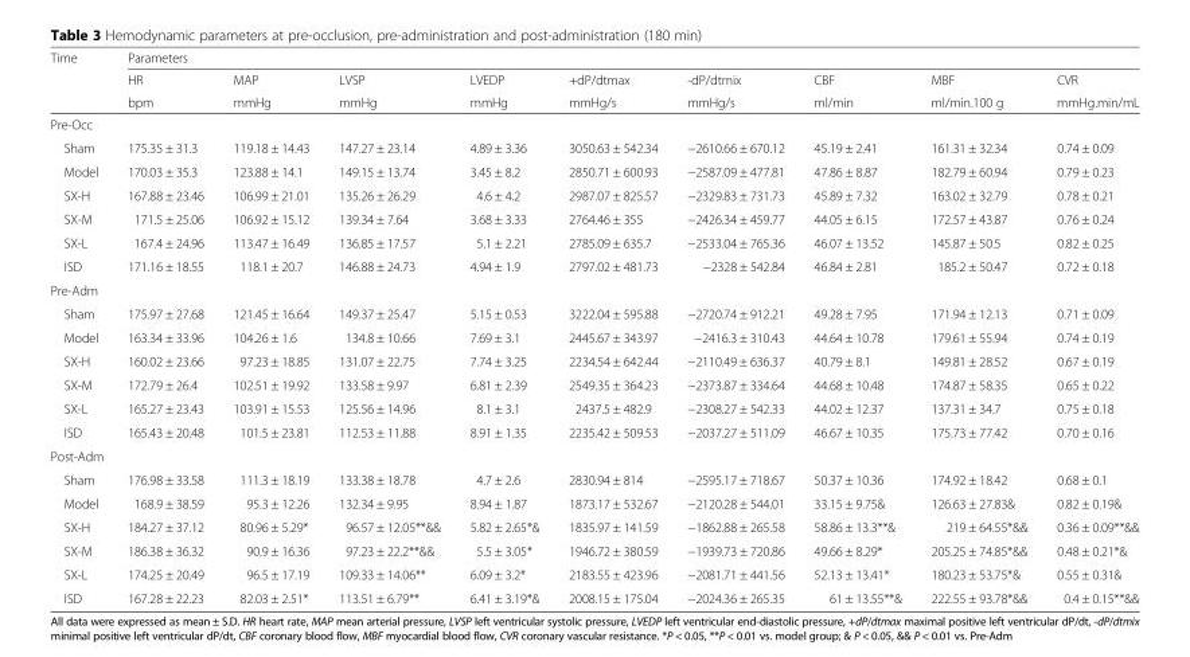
<table><thead><tr><td rowspan="3">Time</td><td colspan="9">Parameters</td></tr><tr><td rowspan="2">HR bpm</td><td rowspan="2">MAP mmHg</td><td rowspan="2">LVSP mmHg</td><td rowspan="2">LVEDP mmHg</td><td rowspan="2">+dP/dtmax mmHg/s</td><td rowspan="2">-dP/dtmix mmHg/s</td><td rowspan="2">CBF ml/min</td><td rowspan="2">MBF ml/min.100 g</td><td rowspan="2">CVR mmHg.min/mL</td></tr><tr></tr></thead><tbody><tr><td colspan="10">Pre-Occ</td></tr><tr><td>Sham</td><td>175.35 ± 31.3</td><td>119.18 ± 14.43</td><td>147.27 ± 23.14</td><td>4.89 ± 3.36</td><td>3050.63 ± 542.34</td><td>−2610.66 ± 670.12</td><td>45.19 ± 2.41</td><td>161.31 ± 32.34</td><td>0.74 ± 0.09</td></tr><tr><td>Model</td><td>170.03 ± 35.3</td><td>123.88 ± 14.1</td><td>149.15 ± 13.74</td><td>3.45 ± 8.2</td><td>2850.71 ± 600.93</td><td>−2587.09 ± 477.81</td><td>47.86 ± 8.87</td><td>182.79 ± 60.94</td><td>0.79 ± 0.23</td></tr><tr><td>SX-H</td><td>167.88 ± 23.46</td><td>106.99 ± 21.01</td><td>135.26 ± 26.29</td><td>4.6 ± 4.2</td><td>2987.07 ± 825.57</td><td>−2329.83 ± 731.73</td><td>45.89 ± 7.32</td><td>163.02 ± 32.79</td><td>0.78 ± 0.21</td></tr><tr><td>SX-M</td><td>171.5 ± 25.06</td><td>106.92 ± 15.12</td><td>139.34 ± 7.64</td><td>3.68 ± 3.33</td><td>2764.46 ± 355</td><td>−2426.34 ± 459.77</td><td>44.05 ± 6.15</td><td>172.57 ± 43.87</td><td>0.76 ± 0.24</td></tr><tr><td>SX-L</td><td>167.4 ± 24.96</td><td>113.47 ± 16.49</td><td>136.85 ± 17.57</td><td>5.1 ± 2.21</td><td>2785.09 ± 635.7</td><td>−2533.04 ± 765.36</td><td>46.07 ± 13.52</td><td>145.87 ± 50.5</td><td>0.82 ± 0.25</td></tr><tr><td>ISD</td><td>171.16 ± 18.55</td><td>118.1 ± 20.7</td><td>146.88 ± 24.73</td><td>4.94 ± 1.9</td><td>2797.02 ± 481.73</td><td>−2328 ± 542.84</td><td>46.84 ± 2.81</td><td>185.2 ± 50.47</td><td>0.72 ± 0.18</td></tr><tr><td colspan="10">Pre-Adm</td></tr><tr><td>Sham</td><td>175.97 ± 27.68</td><td>121.45 ± 16.64</td><td>149.37 ± 25.47</td><td>5.15 ± 0.53</td><td>3222.04 ± 595.88</td><td>−2720.74 ± 912.21</td><td>49.28 ± 7.95</td><td>171.94 ± 12.13</td><td>0.71 ± 0.09</td></tr><tr><td>Model</td><td>163.34 ± 33.96</td><td>104.26 ± 1.6</td><td>134.8 ± 10.66</td><td>7.69 ± 3.1</td><td>2445.67 ± 343.97</td><td>−2416.3 ± 310.43</td><td>44.64 ± 10.78</td><td>179.61 ± 55.94</td><td>0.74 ± 0.19</td></tr><tr><td>SX-H</td><td>160.02 ± 23.66</td><td>97.23 ± 18.85</td><td>131.07 ± 22.75</td><td>7.74 ± 3.25</td><td>2234.54 ± 642.44</td><td>−2110.49 ± 636.37</td><td>40.79 ± 8.1</td><td>149.81 ± 28.52</td><td>0.67 ± 0.19</td></tr><tr><td>SX-M</td><td>172.79 ± 26.4</td><td>102.51 ± 19.92</td><td>133.58 ± 9.97</td><td>6.81 ± 2.39</td><td>2549.35 ± 364.23</td><td>−2373.87 ± 334.64</td><td>44.68 ± 10.48</td><td>174.87 ± 58.35</td><td>0.65 ± 0.22</td></tr><tr><td>SX-L</td><td>165.27 ± 23.43</td><td>103.91 ± 15.53</td><td>125.56 ± 14.96</td><td>8.1 ± 3.1</td><td>2437.5 ± 482.9</td><td>−2308.27 ± 542.33</td><td>44.02 ± 12.37</td><td>137.31 ± 34.7</td><td>0.75 ± 0.18</td></tr><tr><td>ISD</td><td>165.43 ± 20.48</td><td>101.5 ± 23.81</td><td>112.53 ± 11.88</td><td>8.91 ± 1.35</td><td>2235.42 ± 509.53</td><td>−2037.27 ± 511.09</td><td>46.67 ± 10.35</td><td>175.73 ± 77.42</td><td>0.70 ± 0.16</td></tr><tr><td colspan="10">Post-Adm</td></tr><tr><td>Sham</td><td>176.98 ± 33.58</td><td>111.3 ± 18.19</td><td>133.38 ± 18.78</td><td>4.7 ± 2.6</td><td>2830.94 ± 814</td><td>−2595.17 ± 718.67</td><td>50.37 ± 10.36</td><td>174.92 ± 18.42</td><td>0.68 ± 0.1</td></tr><tr><td>Model</td><td>168.9 ± 38.59</td><td>95.3 ± 12.26</td><td>132.34 ± 9.95</td><td>8.94 ± 1.87</td><td>1873.17 ± 532.67</td><td>−2120.28 ± 544.01</td><td>33.15 ± 9.75&amp;</td><td>126.63 ± 27.83&amp;</td><td>0.82 ± 0.19&amp;</td></tr><tr><td>SX-H</td><td>184.27 ± 37.12</td><td>80.96 ± 5.29*</td><td>96.57 ± 12.05**&amp;&amp;</td><td>5.82 ± 2.65*&amp;</td><td>1835.97 ± 141.59</td><td>−1862.88 ± 265.58</td><td>58.86 ± 13.3**&amp;</td><td>219 ± 64.55*&amp;&amp;</td><td>0.36 ± 0.09**&amp;&amp;</td></tr><tr><td>SX-M</td><td>186.38 ± 36.32</td><td>90.9 ± 16.36</td><td>97.23 ± 22.2**&amp;&amp;</td><td>5.5 ± 3.05*</td><td>1946.72 ± 380.59</td><td>−1939.73 ± 720.86</td><td>49.66 ± 8.29*</td><td>205.25 ± 74.85*&amp;&amp;</td><td>0.48 ± 0.21*&amp;</td></tr><tr><td>SX-L</td><td>174.25 ± 20.49</td><td>96.5 ± 17.19</td><td>109.33 ± 14.06**</td><td>6.09 ± 3.2*</td><td>2183.55 ± 423.96</td><td>−2081.71 ± 441.56</td><td>52.13 ± 13.41*</td><td>180.23 ± 53.75*&amp;</td><td>0.55 ± 0.31&amp;</td></tr><tr><td>ISD</td><td>167.28 ± 22.23</td><td>82.03 ± 2.51*</td><td>113.51 ± 6.79**</td><td>6.41 ± 3.19*&amp;</td><td>2008.15 ± 175.04</td><td>−2024.36 ± 265.35</td><td>61 ± 13.55**&amp;</td><td>222.55 ± 93.78*&amp;&amp;</td><td>0.4 ± 0.15**&amp;&amp;</td></tr></tbody></table>